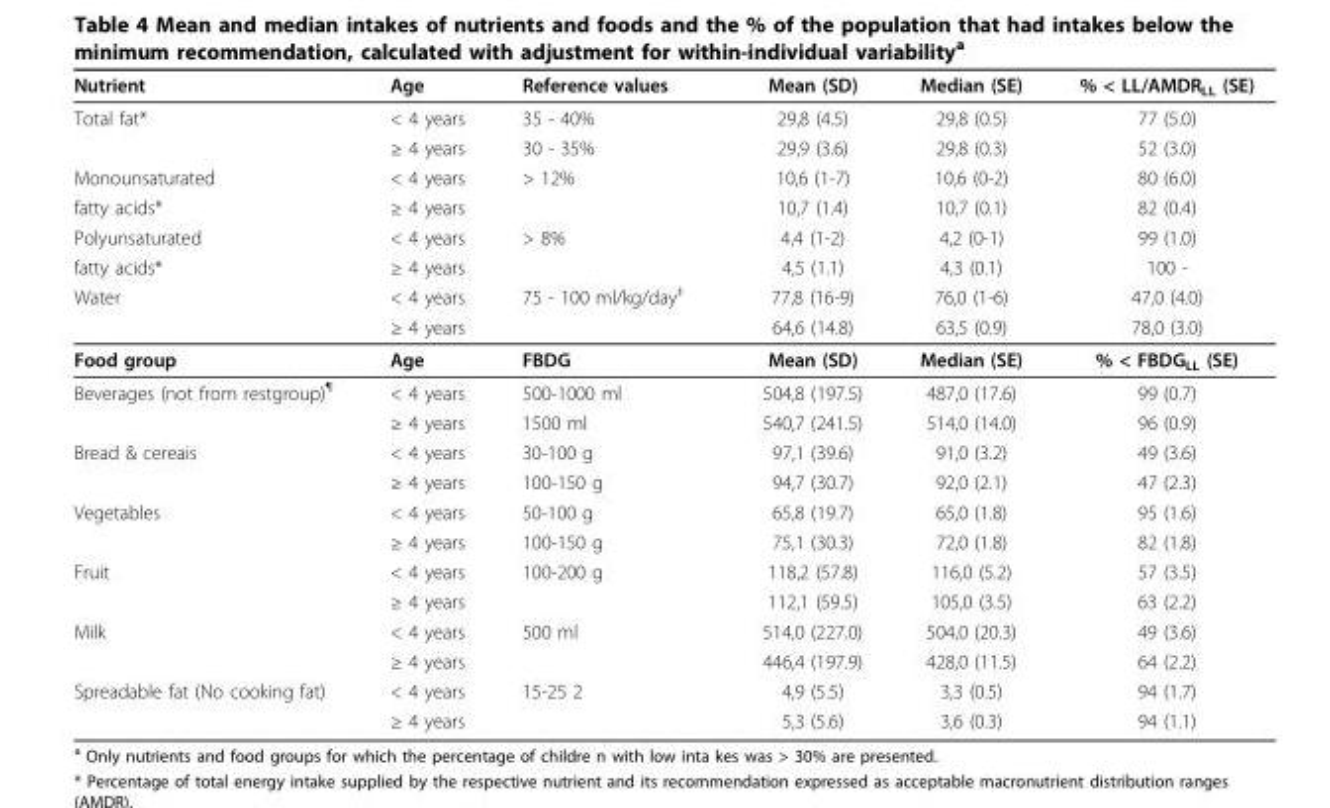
<table><thead><tr><td>Nutrient</td><td>Age</td><td>Reference values</td><td>Mean (SD)</td><td>Median (SE)</td><td>% &lt; LL/AMDR<sub>LL</sub> (SE)</td></tr></thead><tbody><tr><td rowspan="2">Total fat*</td><td>&lt; 4 years</td><td>35 - 40%</td><td>29,8 (4.5)</td><td>29,8 (0.5)</td><td>77 (5.0)</td></tr><tr><td>≥ 4 years</td><td>30 - 35%</td><td>29,9 (3.6)</td><td>29,8 (0.3)</td><td>52 (3.0)</td></tr><tr><td>Monounsaturated</td><td>&lt; 4 years</td><td>&gt; 12%</td><td>10,6 (1-7)</td><td>10,6 (0-2)</td><td>80 (6.0)</td></tr><tr><td>fatty acids*</td><td>≥ 4 years</td><td></td><td>10,7 (1.4)</td><td>10,7 (0.1)</td><td>82 (0.4)</td></tr><tr><td>Polyunsaturated</td><td>&lt; 4 years</td><td>&gt; 8%</td><td>4,4 (1-2)</td><td>4,2 (0-1)</td><td>99 (1.0)</td></tr><tr><td>fatty acids*</td><td>≥ 4 years</td><td></td><td>4,5 (1.1)</td><td>4,3 (0.1)</td><td>100 -</td></tr><tr><td rowspan="2">Water</td><td>&lt; 4 years</td><td>75 - 100 ml/kg/day<sup>‡</sup></td><td>77,8 (16-9)</td><td>76,0 (1-6)</td><td>47,0 (4.0)</td></tr><tr><td>≥ 4 years</td><td></td><td>64,6 (14.8)</td><td>63,5 (0.9)</td><td>78,0 (3.0)</td></tr><tr><td>Food group</td><td>Age</td><td>FBDG</td><td>Mean (SD)</td><td>Median (SE)</td><td>% &lt; FBDG<sub>LL</sub> (SE)</td></tr><tr><td rowspan="2">Beverages (not from restgroup)<sup>¶</sup></td><td>&lt; 4 years</td><td>500-1000 ml</td><td>504,8 (197.5)</td><td>487,0 (17.6)</td><td>99 (0.7)</td></tr><tr><td>≥ 4 years</td><td>1500 ml</td><td>540,7 (241.5)</td><td>514,0 (14.0)</td><td>96 (0.9)</td></tr><tr><td rowspan="2">Bread &amp; cereais</td><td>&lt; 4 years</td><td>30-100 g</td><td>97,1 (39.6)</td><td>91,0 (3.2)</td><td>49 (3.6)</td></tr><tr><td>≥ 4 years</td><td>100-150 g</td><td>94,7 (30.7)</td><td>92,0 (2.1)</td><td>47 (2.3)</td></tr><tr><td rowspan="2">Vegetables</td><td>&lt; 4 years</td><td>50-100 g</td><td>65,8 (19.7)</td><td>65,0 (1.8)</td><td>95 (1.6)</td></tr><tr><td>≥ 4 years</td><td>100-150 g</td><td>75,1 (30.3)</td><td>72,0 (1.8)</td><td>82 (1.8)</td></tr><tr><td rowspan="2">Fruit</td><td>&lt; 4 years</td><td>100-200 g</td><td>118,2 (57.8)</td><td>116,0 (5.2)</td><td>57 (3.5)</td></tr><tr><td>≥ 4 years</td><td></td><td>112,1 (59.5)</td><td>105,0 (3.5)</td><td>63 (2.2)</td></tr><tr><td rowspan="2">Milk</td><td>&lt; 4 years</td><td>500 ml</td><td>514,0 (227.0)</td><td>504,0 (20.3)</td><td>49 (3.6)</td></tr><tr><td>≥ 4 years</td><td></td><td>446,4 (197.9)</td><td>428,0 (11.5)</td><td>64 (2.2)</td></tr><tr><td rowspan="2">Spreadable fat (No cooking fat)</td><td>&lt; 4 years</td><td>15-25 2</td><td>4,9 (5.5)</td><td>3,3 (0.5)</td><td>94 (1.7)</td></tr><tr><td>≥ 4 years</td><td></td><td>5,3 (5.6)</td><td>3,6 (0.3)</td><td>94 (1.1)</td></tr></tbody></table>